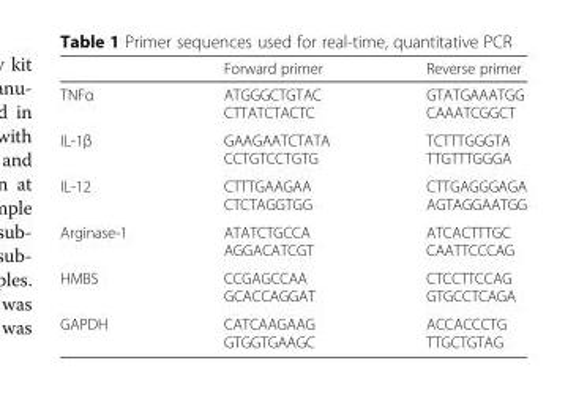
<table><thead><tr><td></td><td>Forward primer</td><td>Reverse primer</td></tr></thead><tbody><tr><td>TNFα</td><td>ATGGGCTGTAC CTTATCTACTC</td><td>GTATGAAATGG CAAATCGGCT</td></tr><tr><td>IL-1β</td><td>GAAGAATCTATA CCTGTCCTGTG</td><td>TCTTTGGGTA TTGTTTGGGA</td></tr><tr><td>IL-12</td><td>CTTTGAAGAA CTCTAGGTGG</td><td>CTTGAGGGAGA AGTAGGAATGG</td></tr><tr><td>Arginase-1</td><td>ATATCTGCCA AGGACATCGT</td><td>ATCACTTTGC CAATTCCCAG</td></tr><tr><td>HMBS</td><td>CCGAGCCAA GCACCAGGAT</td><td>CTCCTTCCAG GTGCCTCAGA</td></tr><tr><td>GAPDH</td><td>CATCAAGAAG GTGGTGAAGC</td><td>ACCACCCTG TTGCTGTAG</td></tr></tbody></table>